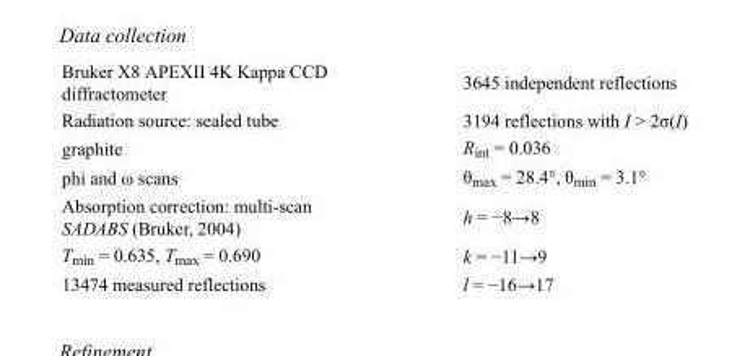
<table><tbody><tr><td>Bruker X8 APEXII 4K Kappa CCD diffractometer</td><td>3645 independent reflections</td></tr><tr><td>Radiation source: sealed tube</td><td>3194 reflections with I &gt; 2σ(I)</td></tr><tr><td>graphite</td><td>R<sub>int</sub> = 0.036</td></tr><tr><td>phi and ω scans</td><td>θ<sub>max</sub> = 28.4°, θ<sub>min</sub> = 3.1°</td></tr><tr><td>Absorption correction: multi-scan SADABS (Bruker, 2004)</td><td>h = −8→8</td></tr><tr><td>T<sub>min</sub> = 0.635, T<sub>max</sub> = 0.690</td><td>k = −11→9</td></tr><tr><td>13474 measured reflections</td><td>l = −16→17</td></tr></tbody></table>